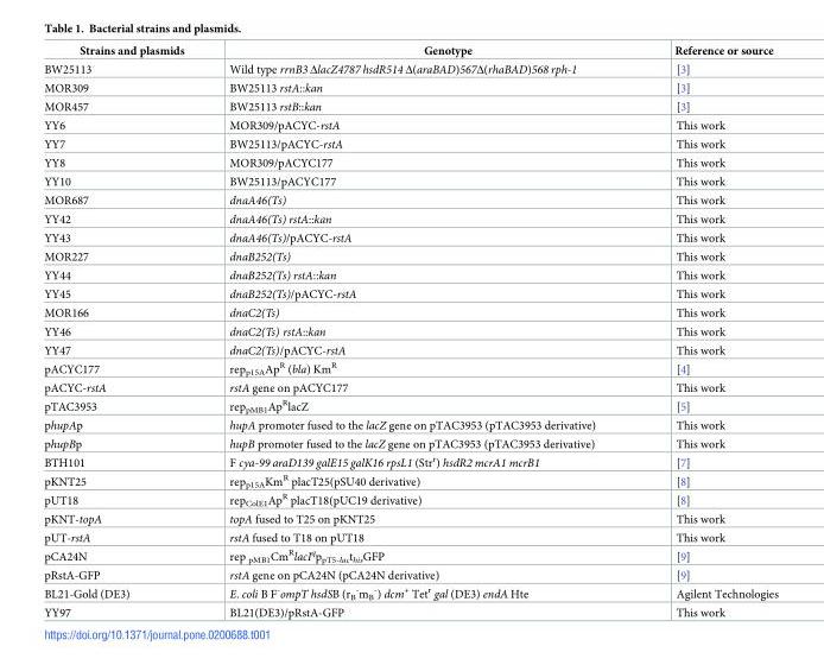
<table><thead><tr><td>Strains and plasmids</td><td>Genotype</td><td>Reference or source</td></tr></thead><tbody><tr><td>BW25113</td><td>Wild type rrnB3 ΔlacZ4787 hsdR514 Δ(araBAD)567Δ(rhaBAD)568 rph-1</td><td>[3]</td></tr><tr><td>MOR309</td><td>BW25113 rstA::kan</td><td>[3]</td></tr><tr><td>MOR457</td><td>BW25113 rstB::kan</td><td>[3]</td></tr><tr><td>YY6</td><td>MOR309/pACYC-rstA</td><td>This work</td></tr><tr><td>YY7</td><td>BW25113/pACYC-rstA</td><td>This work</td></tr><tr><td>YY8</td><td>MOR309/pACYC177</td><td>This work</td></tr><tr><td>YY10</td><td>BW25113/pACYC177</td><td>This work</td></tr><tr><td>MOR687</td><td>dnaA46(Ts)</td><td>This work</td></tr><tr><td>YY42</td><td>dnaA46(Ts) rstA::kan</td><td>This work</td></tr><tr><td>YY43</td><td>dnaA46(Ts)/pACYC-rstA</td><td>This work</td></tr><tr><td>MOR227</td><td>dnaB252(Ts)</td><td>This work</td></tr><tr><td>YY44</td><td>dnaB252(Ts) rstA::kan</td><td>This work</td></tr><tr><td>YY45</td><td>dnaB252(Ts)/pACYC-rstA</td><td>This work</td></tr><tr><td>MOR166</td><td>dnaC2(Ts)</td><td>This work</td></tr><tr><td>YY46</td><td>dnaC2(Ts) rstA::kan</td><td>This work</td></tr><tr><td>YY47</td><td>dnaC2(Ts)/pACYC-rstA</td><td>This work</td></tr><tr><td>pACYC177</td><td>rep<sub>p15A</sub>Ap<sup>R</sup> (bla) Km<sup>R</sup></td><td>[4]</td></tr><tr><td>pACYC-rstA</td><td>rstA gene on pACYC177</td><td>This work</td></tr><tr><td>pTAC3953</td><td>rep<sub>pMB1</sub>Ap<sup>R</sup>lacZ</td><td>[5]</td></tr><tr><td>phupAp</td><td>hupA promoter fused to the lacZ gene on pTAC3953 (pTAC3953 derivative)</td><td>This work</td></tr><tr><td>phupBp</td><td>hupB promoter fused to the lacZ gene on pTAC3953 (pTAC3953 derivative)</td><td>This work</td></tr><tr><td>BTH101</td><td>F cya-99 araD139 galE15 galK16 rpsL1 (Str<sup>r</sup>) hsdR2 mcrA1 mcrB1</td><td>[7]</td></tr><tr><td>pKNT25</td><td>rep<sub>p15A</sub>Km<sup>R</sup> placT25(pSU40 derivative)</td><td>[8]</td></tr><tr><td>pUT18</td><td>rep<sub>ColE1</sub>Ap<sup>R</sup> placT18(pUC19 derivative)</td><td>[8]</td></tr><tr><td>pKNT-topA</td><td>topA fused to T25 on pKNT25</td><td>This work</td></tr><tr><td>pUT-rstA</td><td>rstA fused to T18 on pUT18</td><td>This work</td></tr><tr><td>pCA24N</td><td>rep <sub>pMB1</sub>Cm<sup>R</sup>lacI<sup>q</sup>p<sub>pT5-lac</sub>t<sub>his</sub>GFP</td><td>[9]</td></tr><tr><td>pRstA-GFP</td><td>rstA gene on pCA24N (pCA24N derivative)</td><td>[9]</td></tr><tr><td>BL21-Gold (DE3)</td><td>E. coli B F<sup>-</sup>ompT hsdSB (r<sub>B</sub> <sup>-</sup>m<sub>B</sub> <sup>-</sup>) dcm<sup>+</sup> Tet<sup>r</sup> gal (DE3) endA Hte</td><td>Agilent Technologies</td></tr><tr><td>YY97</td><td>BL21(DE3)/pRstA-GFP</td><td>This work</td></tr></tbody></table>